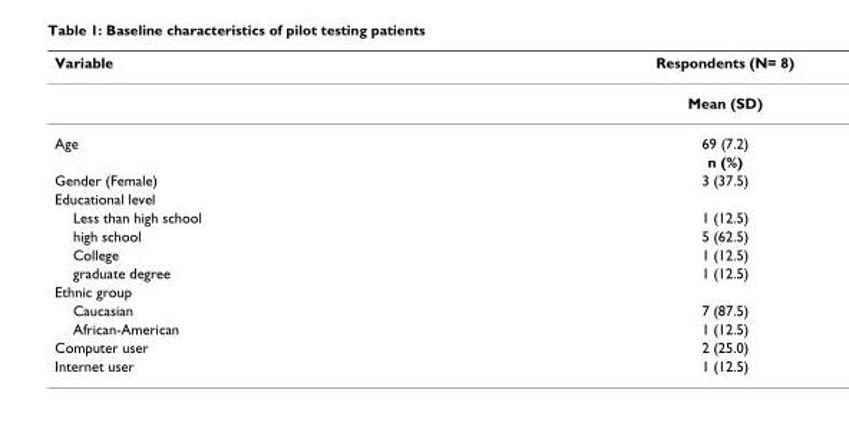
<table><thead><tr><td>Variable</td><td>Respondents (N= 8)</td></tr></thead><tbody><tr><td></td><td>Mean (SD)</td></tr><tr><td rowspan="2">Age</td><td>69 (7.2)</td></tr><tr><td>n (%)</td></tr><tr><td>Gender (Female)</td><td>3 (37.5)</td></tr><tr><td colspan="2">Educational level</td></tr><tr><td>Less than high school</td><td>1 (12.5)</td></tr><tr><td>high school</td><td>5 (62.5)</td></tr><tr><td>College</td><td>1 (12.5)</td></tr><tr><td>graduate degree</td><td>1 (12.5)</td></tr><tr><td colspan="2">Ethnic group</td></tr><tr><td>Caucasian</td><td>7 (87.5)</td></tr><tr><td>African-American</td><td>1 (12.5)</td></tr><tr><td>Computer user</td><td>2 (25.0)</td></tr><tr><td>Internet user</td><td>1 (12.5)</td></tr></tbody></table>